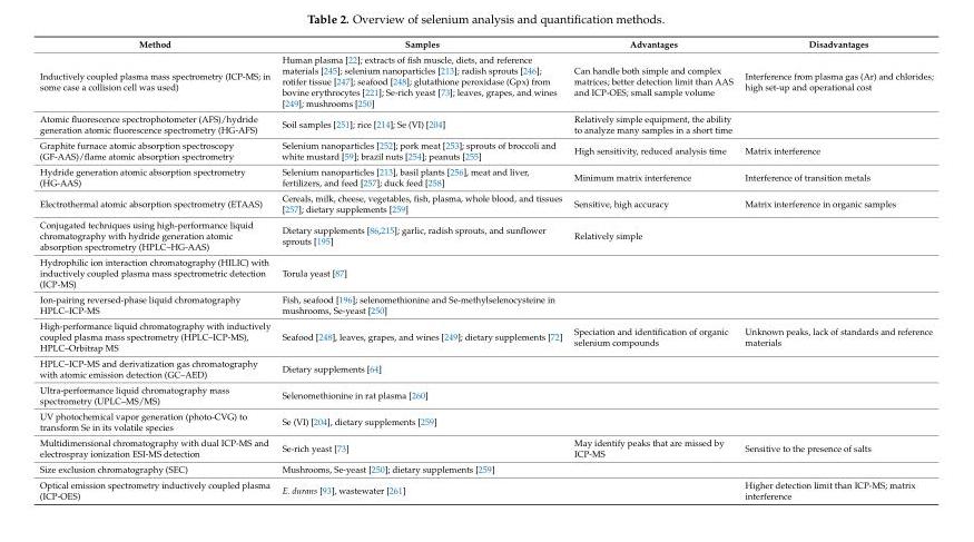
<table><thead><tr><td>Method</td><td>Samples</td><td>Advantages</td><td>Disadvantages</td></tr></thead><tbody><tr><td>Inductively coupled plasma mass spectrometry (ICP-MS; in some case a collision cell was used)</td><td>Human plasma [22]; extracts of fish muscle, diets, and reference materials [245]; selenium nanoparticles [213]; radish sprouts [246]; rotifer tissue [247]; seafood [248]; glutathione peroxidase (Gpx) from bovine erythrocytes [221]; Se-rich yeast [73]; leaves, grapes, and wines [249]; mushrooms [250]</td><td>Can handle both simple and complex matrices; better detection limit than AAS and ICP-OES; small sample volume</td><td>Interference from plasma gas (Ar) and chlorides; high set-up and operational cost</td></tr><tr><td>Atomic fluorescence spectrophotometer (AFS)/hydride generation atomic fluorescence spectrometry (HG-AFS)</td><td>Soil samples [251]; rice [214]; Se (VI) [204]</td><td>Relatively simple equipment, the ability to analyze many samples in a short time</td><td></td></tr><tr><td>Graphite furnace atomic absorption spectroscopy (GF-AAS)/flame atomic absorption spectrometry</td><td>Selenium nanoparticles [252]; pork meat [253]; sprouts of broccoli and white mustard [59]; brazil nuts [254]; peanuts [255]</td><td>High sensitivity, reduced analysis time</td><td>Matrix interference</td></tr><tr><td>Hydride generation atomic absorption spectrometry (HG-AAS)</td><td>Selenium nanoparticles [213], basil plants [256], meat and liver, fertilizers, and feed [257]; duck feed [258]</td><td>Minimum matrix interference</td><td>Interference of transition metals</td></tr><tr><td>Electrothermal atomic absorption spectrometry (ETAAS)</td><td>Cereals, milk, cheese, vegetables, fish, plasma, whole blood, and tissues [257]; dietary supplements [259]</td><td>Sensitive, high accuracy</td><td>Matrix interference in organic samples</td></tr><tr><td>Conjugated techniques using high-performance liquid chromatography with hydride generation atomic absorption spectrometry (HPLC–HG-AAS)</td><td>Dietary supplements [86,215]; garlic, radish sprouts, and sunflower sprouts [195]</td><td>Relatively simple</td><td></td></tr><tr><td>Hydrophilic ion interaction chromatography (HILIC) with inductively coupled plasma mass spectrometric detection (ICP-MS)</td><td>Torula yeast [87]</td><td></td><td></td></tr><tr><td>Ion-pairing reversed-phase liquid chromatography HPLC–ICP-MS</td><td>Fish, seafood [196]; selenomethionine and Se-methylselenocysteine in mushrooms, Se-yeast [250]</td><td></td><td></td></tr><tr><td>High-performance liquid chromatography with inductively coupled plasma mass spectrometry (HPLC–ICP-MS), HPLC–Orbitrap MS</td><td>Seafood [248], leaves, grapes, and wines [249]; dietary supplements [72]</td><td>Speciation and identification of organic selenium compounds</td><td>Unknown peaks, lack of standards and reference materials</td></tr><tr><td>HPLC–ICP-MS and derivatization gas chromatography with atomic emission detection (GC–AED)</td><td>Dietary supplements [64]</td><td></td><td></td></tr><tr><td>Ultra-performance liquid chromatography mass spectrometry (UPLC–MS/MS)</td><td>Selenomethionine in rat plasma [260]</td><td></td><td></td></tr><tr><td>UV photochemical vapor generation (photo-CVG) to transform Se in its volatile species</td><td>Se (VI) [204], dietary supplements [259]</td><td></td><td></td></tr><tr><td>Multidimensional chromatography with dual ICP-MS and electrospray ionization ESI-MS detection</td><td>Se-rich yeast [73]</td><td>May identify peaks that are missed by ICP-MS</td><td>Sensitive to the presence of salts</td></tr><tr><td>Size exclusion chromatography (SEC)</td><td>Mushrooms, Se-yeast [250]; dietary supplements [259]</td><td></td><td></td></tr><tr><td>Optical emission spectrometry inductively coupled plasma (ICP-OES)</td><td>E. durans [93], wastewater [261]</td><td></td><td>Higher detection limit than ICP-MS; matrix interference</td></tr></tbody></table>